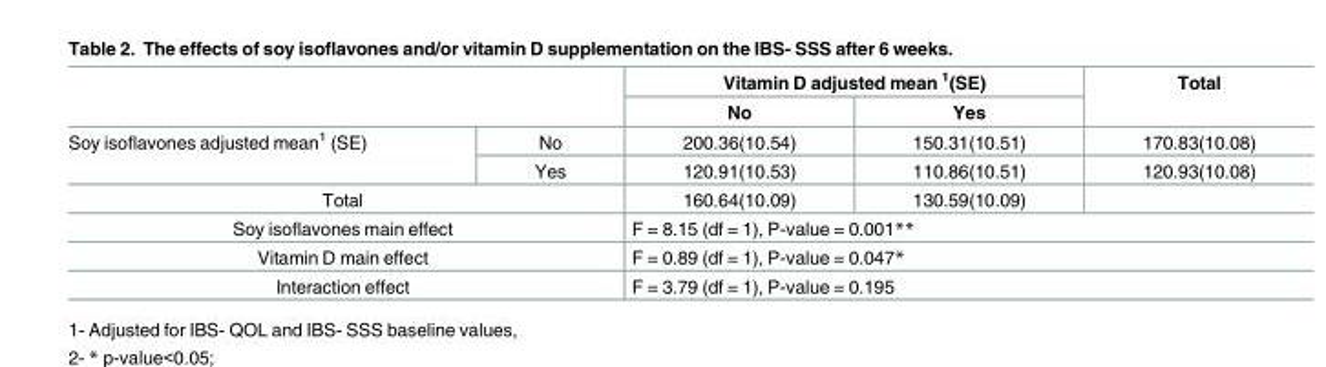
<table><thead><tr><td rowspan="2"></td><td rowspan="2"></td><td colspan="2">Vitamin D adjusted mean <sup>1</sup>(SE)</td><td rowspan="2">Total</td></tr><tr><td>No</td><td>Yes</td></tr></thead><tbody><tr><td rowspan="2">Soy isoflavones adjusted mean<sup>1</sup> (SE)</td><td>No</td><td>200.36(10.54)</td><td>150.31(10.51)</td><td>170.83(10.08)</td></tr><tr><td>Yes</td><td>120.91(10.53)</td><td>110.86(10.51)</td><td>120.93(10.08)</td></tr><tr><td colspan="2">Total</td><td>160.64(10.09)</td><td>130.59(10.09)</td><td></td></tr><tr><td colspan="2">Soy isoflavones main effect</td><td colspan="3">F = 8.15 (df = 1), P-value = 0.001**</td></tr><tr><td colspan="2">Vitamin D main effect</td><td colspan="3">F = 0.89 (df = 1), P-value = 0.047*</td></tr><tr><td colspan="2">Interaction effect</td><td colspan="3">F = 3.79 (df = 1), P-value = 0.195</td></tr></tbody></table>